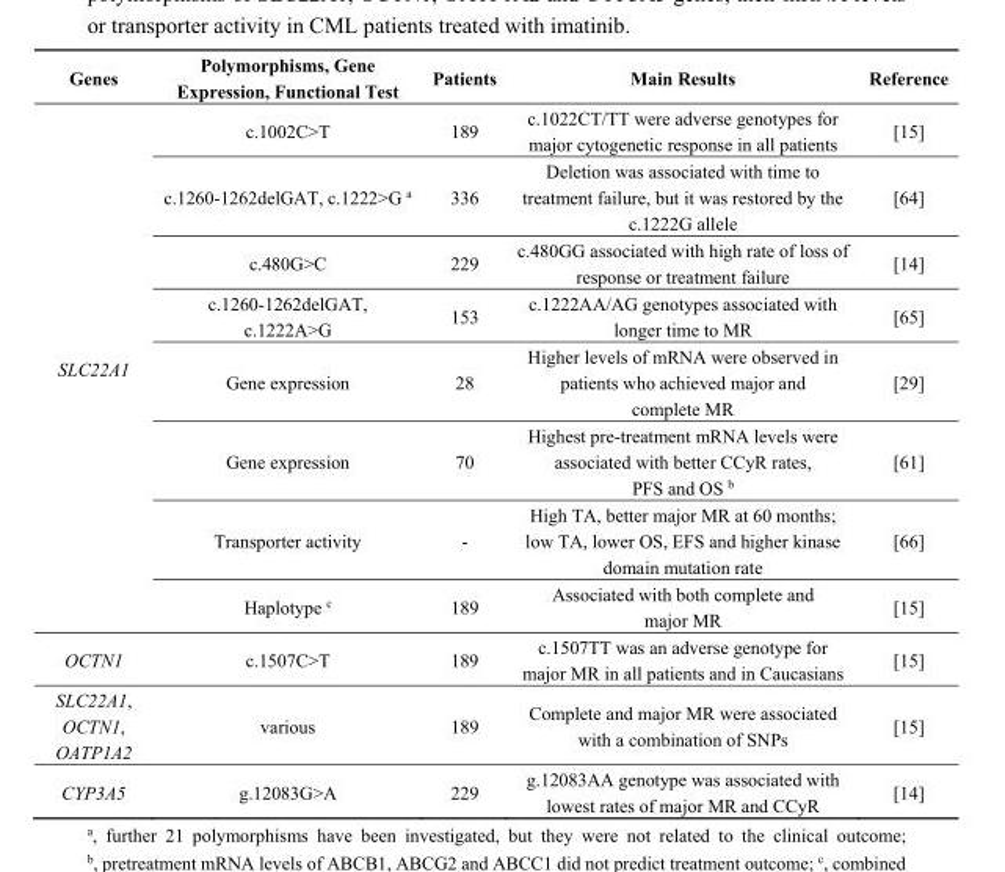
<table><thead><tr><td>Genes</td><td>Polymorphisms, Gene Expression, Functional Test</td><td>Patients</td><td>Main Results</td><td>Reference</td></tr></thead><tbody><tr><td rowspan="8">SLC22A1</td><td>c.1002C&gt;T</td><td>189</td><td>c.1022CT/TT were adverse genotypes for major cytogenetic response in all patients</td><td>[15]</td></tr><tr><td>c.1260-1262delGAT, c.1222&gt;G <sup>a</sup></td><td>336</td><td>Deletion was associated with time to treatment failure, but it was restored by the c.1222G allele</td><td>[64]</td></tr><tr><td>c.480G&gt;C</td><td>229</td><td>c.480GG associated with high rate of loss of response or treatment failure</td><td>[14]</td></tr><tr><td>c.1260-1262delGAT, c.1222A&gt;G</td><td>153</td><td>c.1222AA/AG genotypes associated with longer time to MR</td><td>[65]</td></tr><tr><td>Gene expression</td><td>28</td><td>Higher levels of mRNA were observed in patients who achieved major and complete MR</td><td>[29]</td></tr><tr><td>Gene expression</td><td>70</td><td>Highest pre-treatment mRNA levels were associated with better CCyR rates, PFS and OS <sup>b</sup></td><td>[61]</td></tr><tr><td>Transporter activity</td><td>-</td><td>High TA, better major MR at 60 months; low TA, lower OS, EFS and higher kinase domain mutation rate</td><td>[66]</td></tr><tr><td>Haplotype <sup>c</sup></td><td>189</td><td>Associated with both complete and major MR</td><td>[15]</td></tr><tr><td>OCTN1</td><td>c.1507C&gt;T</td><td>189</td><td>c.1507TT was an adverse genotype for major MR in all patients and in Caucasians</td><td>[15]</td></tr><tr><td>SLC22A1, OCTN1, OATP1A2</td><td>various</td><td>189</td><td>Complete and major MR were associated with a combination of SNPs</td><td>[15]</td></tr><tr><td>CYP3A5</td><td>g.12083G&gt;A</td><td>229</td><td>g.12083AA genotype was associated with lowest rates of major MR and CCyR</td><td>[14]</td></tr></tbody></table>